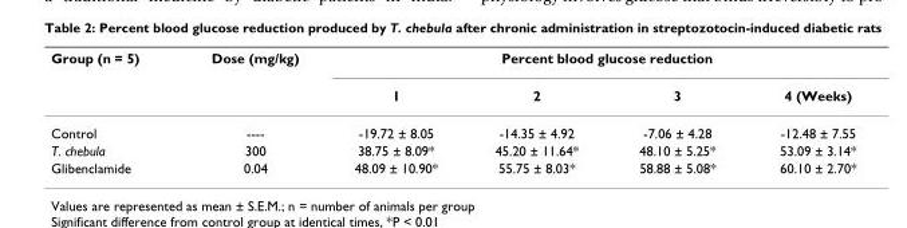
<table><thead><tr><td rowspan="2">Group (n = 5)</td><td rowspan="2">Dose (mg/kg)</td><td colspan="4">Percent blood glucose reduction</td></tr><tr><td>1</td><td>2</td><td>3</td><td>4 (Weeks)</td></tr></thead><tbody><tr><td>Control</td><td>----</td><td>-19.72 ± 8.05</td><td>-14.35 ± 4.92</td><td>-7.06 ± 4.28</td><td>-12.48 ± 7.55</td></tr><tr><td>T. chebula</td><td>300</td><td>38.75 ± 8.09*</td><td>45.20 ± 11.64*</td><td>48.10 ± 5.25*</td><td>53.09 ± 3.14*</td></tr><tr><td>Glibenclamide</td><td>0.04</td><td>48.09 ± 10.90*</td><td>55.75 ± 8.03*</td><td>58.88 ± 5.08*</td><td>60.10 ± 2.70*</td></tr></tbody></table>